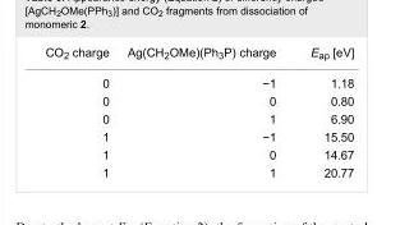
<table><tbody><tr><td>CO<sub>2</sub> charge</td><td>Ag(CH<sub>2</sub>OMe)(Ph<sub>3</sub>P) charge</td><td>E<sub>ap</sub> [eV]</td></tr><tr><td>0</td><td>−1</td><td>1.18</td></tr><tr><td>0</td><td>0</td><td>0.80</td></tr><tr><td>0</td><td>1</td><td>6.90</td></tr><tr><td>1</td><td>−1</td><td>15.50</td></tr><tr><td>1</td><td>0</td><td>14.67</td></tr><tr><td>1</td><td>1</td><td>20.77</td></tr></tbody></table>